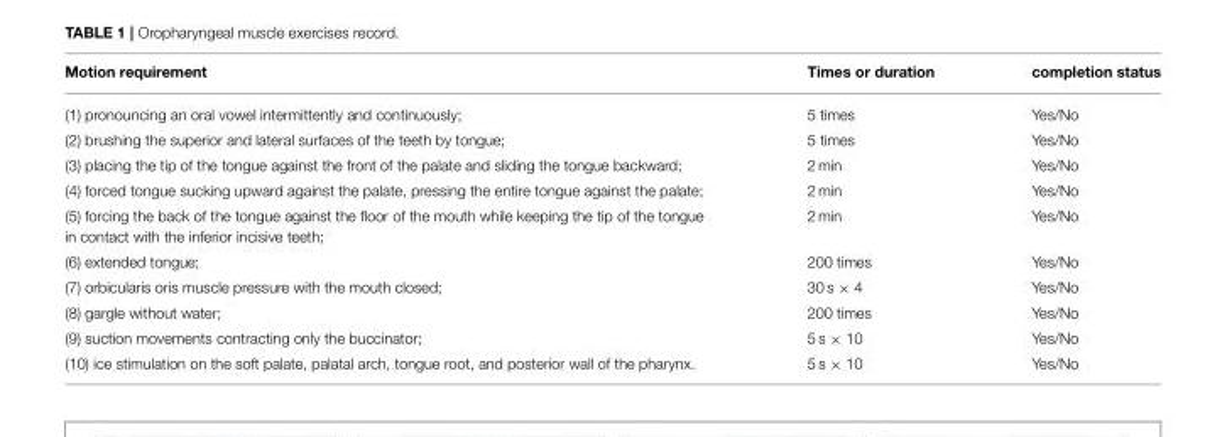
<table><thead><tr><td>Motion requirement</td><td>Times or duration</td><td>completion status</td></tr></thead><tbody><tr><td>(1) pronouncing an oral vowel intermittently and continuously;</td><td>5 times</td><td>Yes/No</td></tr><tr><td>(2) brushing the superior and lateral surfaces of the teeth by tongue;</td><td>5 times</td><td>Yes/No</td></tr><tr><td>(3) placing the tip of the tongue against the front of the palate and sliding the tongue backward;</td><td>2 min</td><td>Yes/No</td></tr><tr><td>(4) forced tongue sucking upward against the palate, pressing the entire tongue against the palate;</td><td>2 min</td><td>Yes/No</td></tr><tr><td>(5) forcing the back of the tongue against the floor of the mouth while keeping the tip of the tongue in contact with the inferior incisive teeth;</td><td>2 min</td><td>Yes/No</td></tr><tr><td>(6) extended tongue;</td><td>200 times</td><td>Yes/No</td></tr><tr><td>(7) orbicularis oris muscle pressure with the mouth closed;</td><td>30 s × 4</td><td>Yes/No</td></tr><tr><td>(8) gargle without water;</td><td>200 times</td><td>Yes/No</td></tr><tr><td>(9) suction movements contracting only the buccinator;</td><td>5 s × 10</td><td>Yes/No</td></tr><tr><td>(10) ice stimulation on the soft palate, palatal arch, tongue root, and posterior wall of the pharynx.</td><td>5 s × 10</td><td>Yes/No</td></tr></tbody></table>